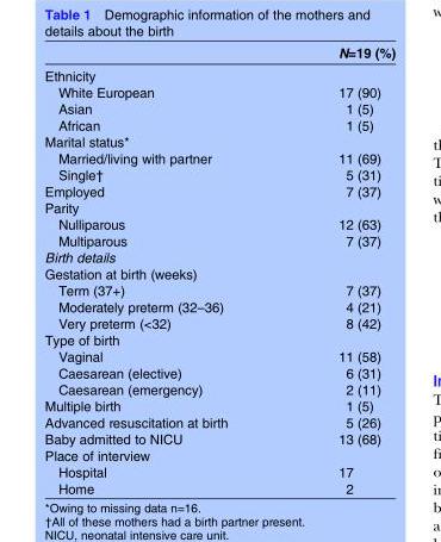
<table><thead><tr><td></td><td>N=19 (%)</td></tr></thead><tbody><tr><td colspan="2">Ethnicity</td></tr><tr><td>White European</td><td>17 (90)</td></tr><tr><td>Asian</td><td>1 (5)</td></tr><tr><td>African</td><td>1 (5)</td></tr><tr><td colspan="2">Marital status*</td></tr><tr><td>Married/living with partner</td><td>11 (69)</td></tr><tr><td>Single†</td><td>5 (31)</td></tr><tr><td>Employed</td><td>7 (37)</td></tr><tr><td colspan="2">Parity</td></tr><tr><td>Nulliparous</td><td>12 (63)</td></tr><tr><td>Multiparous</td><td>7 (37)</td></tr><tr><td colspan="2">Birth details</td></tr><tr><td colspan="2">Gestation at birth (weeks)</td></tr><tr><td>Term (37+)</td><td>7 (37)</td></tr><tr><td>Moderately preterm (32–36)</td><td>4 (21)</td></tr><tr><td>Very preterm (&lt;32)</td><td>8 (42)</td></tr><tr><td colspan="2">Type of birth</td></tr><tr><td>Vaginal</td><td>11 (58)</td></tr><tr><td>Caesarean (elective)</td><td>6 (31)</td></tr><tr><td>Caesarean (emergency)</td><td>2 (11)</td></tr><tr><td>Multiple birth</td><td>1 (5)</td></tr><tr><td>Advanced resuscitation at birth</td><td>5 (26)</td></tr><tr><td>Baby admitted to NICU</td><td>13 (68)</td></tr><tr><td colspan="2">Place of interview</td></tr><tr><td>Hospital</td><td>17</td></tr><tr><td>Home</td><td>2</td></tr></tbody></table>